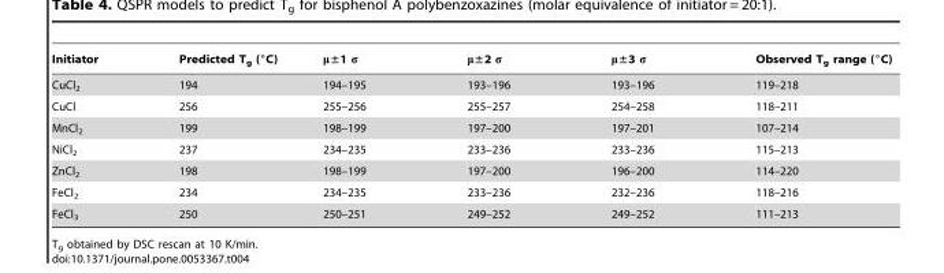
<table><thead><tr><td>Initiator</td><td>Predicted T<sub>g</sub> (°C)</td><td>μ±1 σ</td><td>μ±2 σ</td><td>μ±3 σ</td><td>Observed T<sub>g</sub> range (°C)</td></tr></thead><tbody><tr><td>CuCl<sub>2</sub></td><td>194</td><td>194–195</td><td>193–196</td><td>193–196</td><td>119–218</td></tr><tr><td>CuCl</td><td>256</td><td>255–256</td><td>255–257</td><td>254–258</td><td>118–211</td></tr><tr><td>MnCl<sub>2</sub></td><td>199</td><td>198–199</td><td>197–200</td><td>197–201</td><td>107–214</td></tr><tr><td>NiCl<sub>2</sub></td><td>237</td><td>234–235</td><td>233–236</td><td>233–236</td><td>115–213</td></tr><tr><td>ZnCl<sub>2</sub></td><td>198</td><td>198–199</td><td>197–200</td><td>196–200</td><td>114–220</td></tr><tr><td>FeCl<sub>2</sub></td><td>234</td><td>234–235</td><td>233–236</td><td>232–236</td><td>118–216</td></tr><tr><td>FeCl<sub>3</sub></td><td>250</td><td>250–251</td><td>249–252</td><td>249–252</td><td>111–213</td></tr></tbody></table>